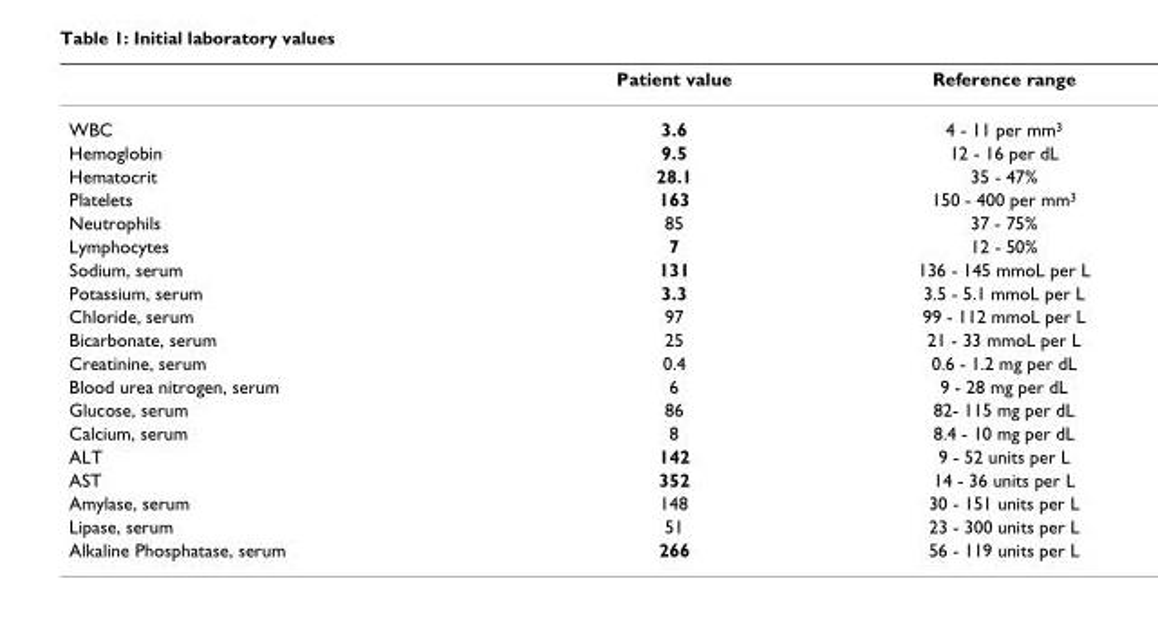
<table><thead><tr><td></td><td>Patient value</td><td>Reference range</td></tr></thead><tbody><tr><td>WBC</td><td>3.6</td><td>4 - 11 per mm<sup>3</sup></td></tr><tr><td>Hemoglobin</td><td>9.5</td><td>12 - 16 per dL</td></tr><tr><td>Hematocrit</td><td>28.1</td><td>35 - 47%</td></tr><tr><td>Platelets</td><td>163</td><td>150 - 400 per mm<sup>3</sup></td></tr><tr><td>Neutrophils</td><td>85</td><td>37 - 75%</td></tr><tr><td>Lymphocytes</td><td>7</td><td>12 - 50%</td></tr><tr><td>Sodium, serum</td><td>131</td><td>136 - 145 mmoL per L</td></tr><tr><td>Potassium, serum</td><td>3.3</td><td>3.5 - 5.1 mmoL per L</td></tr><tr><td>Chloride, serum</td><td>97</td><td>99 - 112 mmoL per L</td></tr><tr><td>Bicarbonate, serum</td><td>25</td><td>21 - 33 mmoL per L</td></tr><tr><td>Creatinine, serum</td><td>0.4</td><td>0.6 - 1.2 mg per dL</td></tr><tr><td>Blood urea nitrogen, serum</td><td>6</td><td>9 - 28 mg per dL</td></tr><tr><td>Glucose, serum</td><td>86</td><td>82- 115 mg per dL</td></tr><tr><td>Calcium, serum</td><td>8</td><td>8.4 - 10 mg per dL</td></tr><tr><td>ALT</td><td>142</td><td>9 - 52 units per L</td></tr><tr><td>AST</td><td>352</td><td>14 - 36 units per L</td></tr><tr><td>Amylase, serum</td><td>148</td><td>30 - 151 units per L</td></tr><tr><td>Lipase, serum</td><td>51</td><td>23 - 300 units per L</td></tr><tr><td>Alkaline Phosphatase, serum</td><td>266</td><td>56 - 119 units per L</td></tr></tbody></table>